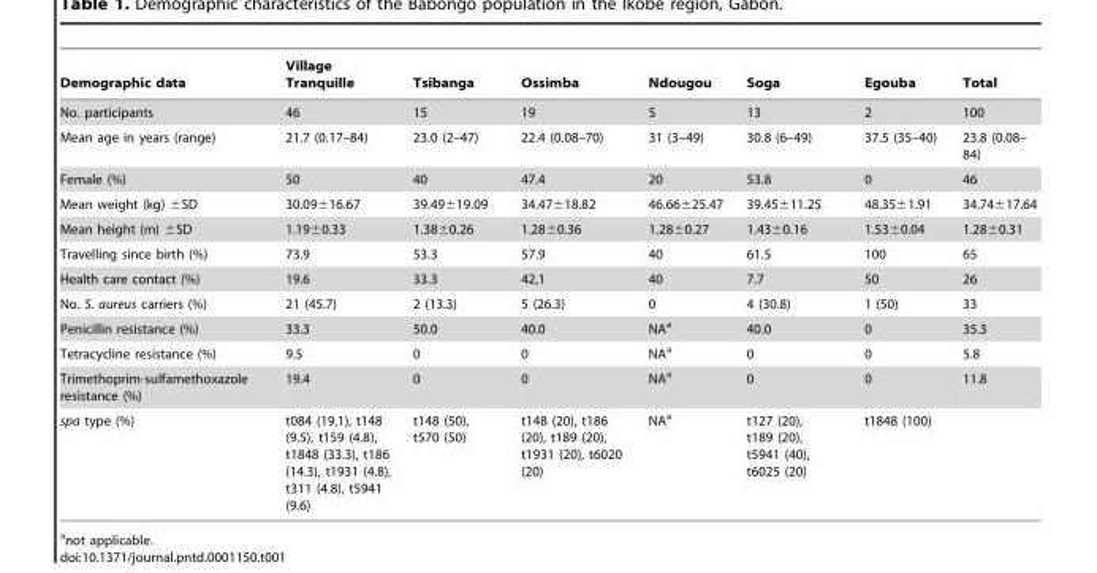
<table><thead><tr><td>Demographic data</td><td>Village Tranquille</td><td>Tsibanga</td><td>Ossimba</td><td>Ndougou</td><td>Soga</td><td>Egouba</td><td>Total</td></tr></thead><tbody><tr><td>No. participants</td><td>46</td><td>15</td><td>19</td><td>5</td><td>13</td><td>2</td><td>100</td></tr><tr><td>Mean age in years (range)</td><td>21.7 (0.17–84)</td><td>23.0 (2–47)</td><td>22.4 (0.08–70)</td><td>31 (3–49)</td><td>30.8 (6–49)</td><td>37.5 (35–40)</td><td>23.8 (0.08– 84)</td></tr><tr><td>Female (%)</td><td>50</td><td>40</td><td>47.4</td><td>20</td><td>53.8</td><td>0</td><td>46</td></tr><tr><td>Mean weight (kg) ±SD</td><td>30.09±16.67</td><td>39.49±19.09</td><td>34.47±18.82</td><td>46.66±25.47</td><td>39.45±11.25</td><td>48.35±1.91</td><td>34.74±17.64</td></tr><tr><td>Mean height (m) ±SD</td><td>1.19±0.33</td><td>1.38±0.26</td><td>1.28±0.36</td><td>1.28±0.27</td><td>1.43±0.16</td><td>1.53±0.04</td><td>1.28±0.31</td></tr><tr><td>Travelling since birth (%)</td><td>73.9</td><td>53.3</td><td>57.9</td><td>40</td><td>61.5</td><td>100</td><td>65</td></tr><tr><td>Health care contact (%)</td><td>19.6</td><td>33.3</td><td>42,1</td><td>40</td><td>7.7</td><td>50</td><td>26</td></tr><tr><td>No. S. aureus carriers (%)</td><td>21 (45.7)</td><td>2 (13.3)</td><td>5 (26.3)</td><td>0</td><td>4 (30.8)</td><td>1 (50)</td><td>33</td></tr><tr><td>Penicillin resistance (%)</td><td>33.3</td><td>50.0</td><td>40.0</td><td>NA<sup>a</sup></td><td>40.0</td><td>0</td><td>35.3</td></tr><tr><td>Tetracycline resistance (%)</td><td>9.5</td><td>0</td><td>0</td><td>NA<sup>a</sup></td><td>0</td><td>0</td><td>5.8</td></tr><tr><td>Trimethoprim-sulfamethoxazole resistance (%)</td><td>19.4</td><td>0</td><td>0</td><td>NA<sup>a</sup></td><td>0</td><td>0</td><td>11.8</td></tr><tr><td>spa type (%)</td><td>t084 (19.1), t148 (9.5), t159 (4.8), t1848 (33.3), t186 (14.3), t1931 (4.8), t311 (4.8), t5941 (9.6)</td><td>t148 (50), t570 (50)</td><td>t148 (20), t186 (20), t189 (20), t1931 (20), t6020 (20)</td><td>NA<sup>a</sup></td><td>t127 (20), t189 (20), t5941 (40), t6025 (20)</td><td>t1848 (100)</td><td></td></tr></tbody></table>